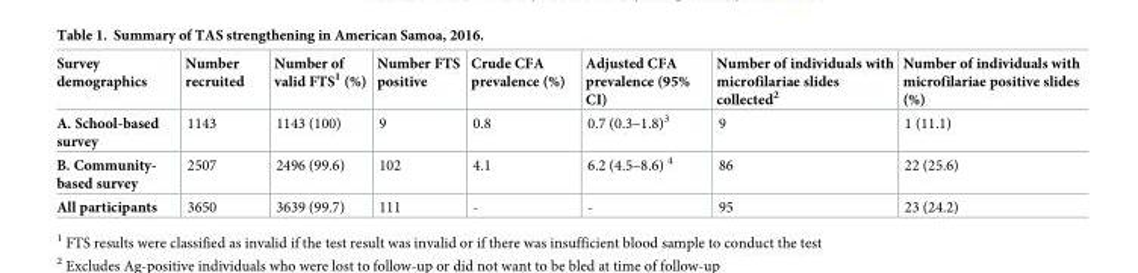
<table><thead><tr><td>Survey demographics</td><td>Number recruited</td><td>Number of valid FTS<sup>1</sup> (%)</td><td>Number FTS positive</td><td>Crude CFA prevalence (%)</td><td>Adjusted CFA prevalence (95% CI)</td><td>Number of individuals with microfilariae slides collected<sup>2</sup></td><td>Number of individuals with microfilariae positive slides (%)</td></tr></thead><tbody><tr><td>A. School-based survey</td><td>1143</td><td>1143 (100)</td><td>9</td><td>0.8</td><td>0.7 (0.3–1.8)<sup>3</sup></td><td>9</td><td>1 (11.1)</td></tr><tr><td>B. Community- based survey</td><td>2507</td><td>2496 (99.6)</td><td>102</td><td>4.1</td><td>6.2 (4.5–8.6) <sup>4</sup></td><td>86</td><td>22 (25.6)</td></tr><tr><td>All participants</td><td>3650</td><td>3639 (99.7)</td><td>111</td><td>-</td><td>-</td><td>95</td><td>23 (24.2)</td></tr></tbody></table>